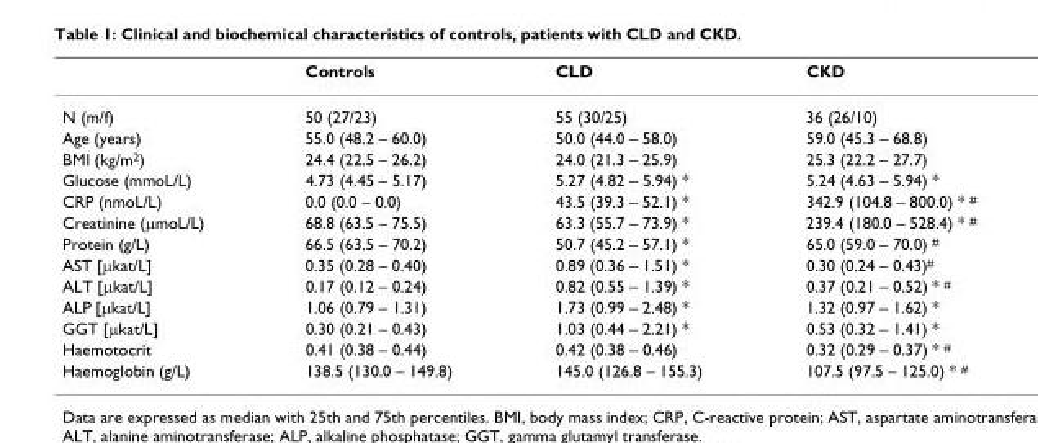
<table><thead><tr><td></td><td>Controls</td><td>CLD</td><td>CKD</td></tr></thead><tbody><tr><td>N (m/f)</td><td>50 (27/23)</td><td>55 (30/25)</td><td>36 (26/10)</td></tr><tr><td>Age (years)</td><td>55.0 (48.2 – 60.0)</td><td>50.0 (44.0 – 58.0)</td><td>59.0 (45.3 – 68.8)</td></tr><tr><td>BMI (kg/m<sup>2</sup>)</td><td>24.4 (22.5 – 26.2)</td><td>24.0 (21.3 – 25.9)</td><td>25.3 (22.2 – 27.7)</td></tr><tr><td>Glucose (mmoL/L)</td><td>4.73 (4.45 – 5.17)</td><td>5.27 (4.82 – 5.94) *</td><td>5.24 (4.63 – 5.94) *</td></tr><tr><td>CRP (nmoL/L)</td><td>0.0 (0.0 – 0.0)</td><td>43.5 (39.3 – 52.1) *</td><td>342.9 (104.8 – 800.0) * <sup>#</sup></td></tr><tr><td>Creatinine (μmoL/L)</td><td>68.8 (63.5 – 75.5)</td><td>63.3 (55.7 – 73.9) *</td><td>239.4 (180.0 – 528.4) * <sup>#</sup></td></tr><tr><td>Protein (g/L)</td><td>66.5 (63.5 – 70.2)</td><td>50.7 (45.2 – 57.1) *</td><td>65.0 (59.0 – 70.0) <sup>#</sup></td></tr><tr><td>AST [μkat/L]</td><td>0.35 (0.28 – 0.40)</td><td>0.89 (0.36 – 1.51) *</td><td>0.30 (0.24 – 0.43)<sup>#</sup></td></tr><tr><td>ALT [μkat/L]</td><td>0.17 (0.12 – 0.24)</td><td>0.82 (0.55 – 1.39) *</td><td>0.37 (0.21 – 0.52) * <sup>#</sup></td></tr><tr><td>ALP [μkat/L]</td><td>1.06 (0.79 – 1.31)</td><td>1.73 (0.99 – 2.48) *</td><td>1.32 (0.97 – 1.62) *</td></tr><tr><td>GGT [μkat/L]</td><td>0.30 (0.21 – 0.43)</td><td>1.03 (0.44 – 2.21) *</td><td>0.53 (0.32 – 1.41) *</td></tr><tr><td>Haemotocrit</td><td>0.41 (0.38 – 0.44)</td><td>0.42 (0.38 – 0.46)</td><td>0.32 (0.29 – 0.37) * <sup>#</sup></td></tr><tr><td>Haemoglobin (g/L)</td><td>138.5 (130.0 – 149.8)</td><td>145.0 (126.8 – 155.3)</td><td>107.5 (97.5 – 125.0) * <sup>#</sup></td></tr></tbody></table>